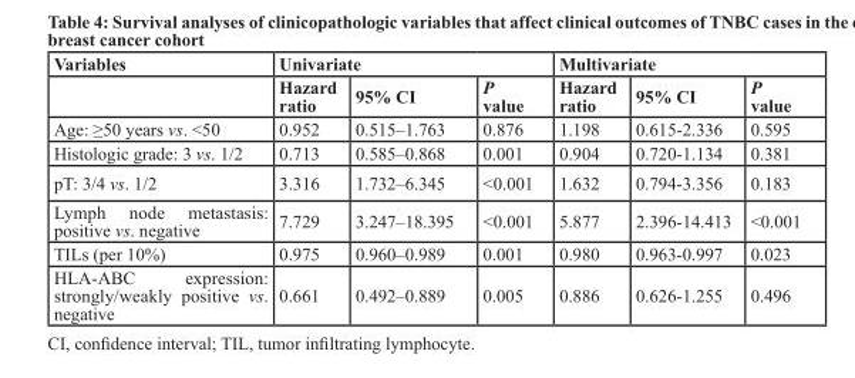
<table><thead><tr><td rowspan="2">Variables</td><td colspan="3">Univariate</td><td colspan="3">Multivariate</td></tr><tr><td>Hazard ratio</td><td>95% CI</td><td>P value</td><td>Hazard ratio</td><td>95% CI</td><td>P value</td></tr></thead><tbody><tr><td>Age: ≥50 years vs. &lt;50</td><td>0.952</td><td>0.515–1.763</td><td>0.876</td><td>1.198</td><td>0.615-2.336</td><td>0.595</td></tr><tr><td>Histologic grade: 3 vs. 1/2</td><td>0.713</td><td>0.585–0.868</td><td>0.001</td><td>0.904</td><td>0.720-1.134</td><td>0.381</td></tr><tr><td>pT: 3/4 vs. 1/2</td><td>3.316</td><td>1.732–6.345</td><td>&lt;0.001</td><td>1.632</td><td>0.794-3.356</td><td>0.183</td></tr><tr><td>Lymph node metastasis: positive vs. negative</td><td>7.729</td><td>3.247–18.395</td><td>&lt;0.001</td><td>5.877</td><td>2.396-14.413</td><td>&lt;0.001</td></tr><tr><td>TILs (per 10%)</td><td>0.975</td><td>0.960–0.989</td><td>0.001</td><td>0.980</td><td>0.963-0.997</td><td>0.023</td></tr><tr><td>HLA-ABC expression: strongly/weakly positive vs. negative</td><td>0.661</td><td>0.492–0.889</td><td>0.005</td><td>0.886</td><td>0.626-1.255</td><td>0.496</td></tr></tbody></table>